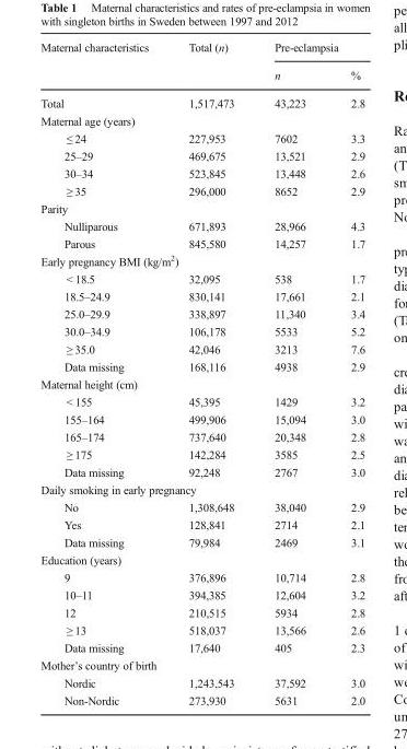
<table><thead><tr><td rowspan="2">Maternal characteristics</td><td rowspan="2">Total (n)</td><td colspan="2">Pre-eclampsia</td></tr><tr><td>n</td><td>%</td></tr></thead><tbody><tr><td>Total</td><td>1,517,473</td><td>43,223</td><td>2.8</td></tr><tr><td colspan="4">Maternal age (years)</td></tr><tr><td>≤ 24</td><td>227,953</td><td>7602</td><td>3.3</td></tr><tr><td>25–29</td><td>469,675</td><td>13,521</td><td>2.9</td></tr><tr><td>30–34</td><td>523,845</td><td>13,448</td><td>2.6</td></tr><tr><td>≥ 35</td><td>296,000</td><td>8652</td><td>2.9</td></tr><tr><td colspan="4">Parity</td></tr><tr><td>Nulliparous</td><td>671,893</td><td>28,966</td><td>4.3</td></tr><tr><td>Parous</td><td>845,580</td><td>14,257</td><td>1.7</td></tr><tr><td colspan="4">Early pregnancy BMI (kg/m<sup>2</sup>)</td></tr><tr><td>&lt; 18.5</td><td>32,095</td><td>538</td><td>1.7</td></tr><tr><td>18.5–24.9</td><td>830,141</td><td>17,661</td><td>2.1</td></tr><tr><td>25.0–29.9</td><td>338,897</td><td>11,340</td><td>3.4</td></tr><tr><td>30.0–34.9</td><td>106,178</td><td>5533</td><td>5.2</td></tr><tr><td>≥ 35.0</td><td>42,046</td><td>3213</td><td>7.6</td></tr><tr><td>Data missing</td><td>168,116</td><td>4938</td><td>2.9</td></tr><tr><td colspan="4">Maternal height (cm)</td></tr><tr><td>&lt; 155</td><td>45,395</td><td>1429</td><td>3.2</td></tr><tr><td>155–164</td><td>499,906</td><td>15,094</td><td>3.0</td></tr><tr><td>165–174</td><td>737,640</td><td>20,348</td><td>2.8</td></tr><tr><td>≥ 175</td><td>142,284</td><td>3585</td><td>2.5</td></tr><tr><td>Data missing</td><td>92,248</td><td>2767</td><td>3.0</td></tr><tr><td colspan="4">Daily smoking in early pregnancy</td></tr><tr><td>No</td><td>1,308,648</td><td>38,040</td><td>2.9</td></tr><tr><td>Yes</td><td>128,841</td><td>2714</td><td>2.1</td></tr><tr><td>Data missing</td><td>79,984</td><td>2469</td><td>3.1</td></tr><tr><td colspan="4">Education (years)</td></tr><tr><td>9</td><td>376,896</td><td>10,714</td><td>2.8</td></tr><tr><td>10–11</td><td>394,385</td><td>12,604</td><td>3.2</td></tr><tr><td>12</td><td>210,515</td><td>5934</td><td>2.8</td></tr><tr><td>≥ 13</td><td>518,037</td><td>13,566</td><td>2.6</td></tr><tr><td>Data missing</td><td>17,640</td><td>405</td><td>2.3</td></tr><tr><td colspan="4">Mother’s country of birth</td></tr><tr><td>Nordic</td><td>1,243,543</td><td>37,592</td><td>3.0</td></tr><tr><td>Non-Nordic</td><td>273,930</td><td>5631</td><td>2.0</td></tr></tbody></table>